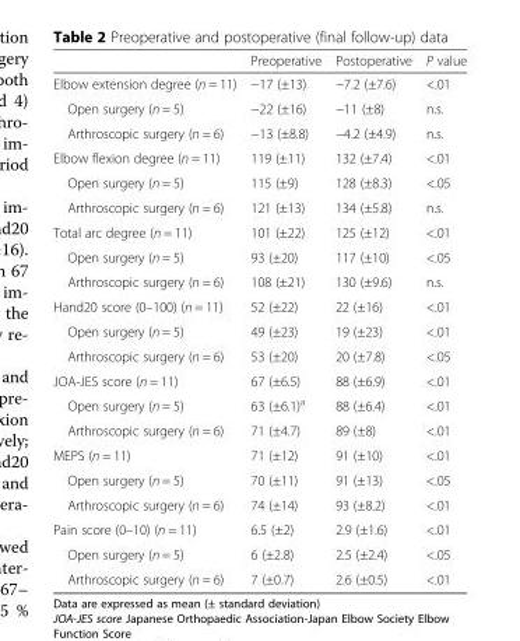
<table><thead><tr><td></td><td>Preoperative</td><td>Postoperative</td><td>P value</td></tr></thead><tbody><tr><td>Elbow extension degree (n = 11)</td><td>−17 (±13)</td><td>−7.2 (±7.6)</td><td>&lt;.01</td></tr><tr><td>Open surgery (n = 5)</td><td>−22 (±16)</td><td>−11 (±8)</td><td>n.s.</td></tr><tr><td>Arthroscopic surgery (n = 6)</td><td>−13 (±8.8)</td><td>−4.2 (±4.9)</td><td>n.s.</td></tr><tr><td>Elbow flexion degree (n = 11)</td><td>119 (±11)</td><td>132 (±7.4)</td><td>&lt;.01</td></tr><tr><td>Open surgery (n = 5)</td><td>115 (±9)</td><td>128 (±8.3)</td><td>&lt;.05</td></tr><tr><td>Arthroscopic surgery (n = 6)</td><td>121 (±13)</td><td>134 (±5.8)</td><td>n.s.</td></tr><tr><td>Total arc degree (n = 11)</td><td>101 (±22)</td><td>125 (±12)</td><td>&lt;.01</td></tr><tr><td>Open surgery (n = 5)</td><td>93 (±20)</td><td>117 (±10)</td><td>&lt;.05</td></tr><tr><td>Arthroscopic surgery (n = 6)</td><td>108 (±21)</td><td>130 (±9.6)</td><td>n.s.</td></tr><tr><td>Hand20 score (0–100) (n = 11)</td><td>52 (±22)</td><td>22 (±16)</td><td>&lt;.01</td></tr><tr><td>Open surgery (n = 5)</td><td>49 (±23)</td><td>19 (±23)</td><td>&lt;.01</td></tr><tr><td>Arthroscopic surgery (n = 6)</td><td>53 (±20)</td><td>20 (±7.8)</td><td>&lt;.05</td></tr><tr><td>JOA-JES score (n = 11)</td><td>67 (±6.5)</td><td>88 (±6.9)</td><td>&lt;.01</td></tr><tr><td>Open surgery (n = 5)</td><td>63 (±6.1)<sup>a</sup></td><td>88 (±6.4)</td><td>&lt;.01</td></tr><tr><td>Arthroscopic surgery (n = 6)</td><td>71 (±4.7)</td><td>89 (±8)</td><td>&lt;.01</td></tr><tr><td>MEPS (n = 11)</td><td>71 (±12)</td><td>91 (±10)</td><td>&lt;.01</td></tr><tr><td>Open surgery (n = 5)</td><td>70 (±11)</td><td>91 (±13)</td><td>&lt;.05</td></tr><tr><td>Arthroscopic surgery (n = 6)</td><td>74 (±14)</td><td>93 (±8.2)</td><td>&lt;.01</td></tr><tr><td>Pain score (0–10) (n = 11)</td><td>6.5 (±2)</td><td>2.9 (±1.6)</td><td>&lt;.01</td></tr><tr><td>Open surgery (n = 5)</td><td>6 (±2.8)</td><td>2.5 (±2.4)</td><td>&lt;.05</td></tr><tr><td>Arthroscopic surgery (n = 6)</td><td>7 (±0.7)</td><td>2.6 (±0.5)</td><td>&lt;.01</td></tr></tbody></table>